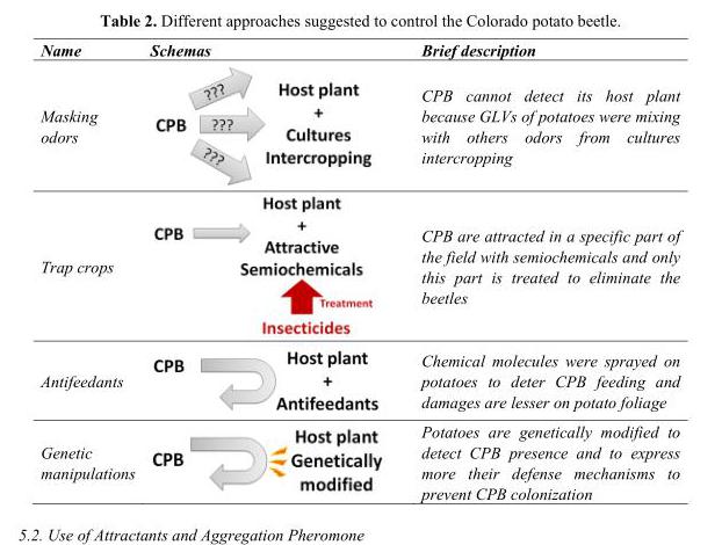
<table><thead><tr><td>Name</td><td>Schemas</td><td>Brief description</td></tr></thead><tbody><tr><td>Masking odors</td><td></td><td>CPB cannot detect its host plant because GLVs of potatoes were mixing with others odors from cultures intercropping</td></tr><tr><td>Trap crops</td><td></td><td>CPB are attracted in a specific part of the field with semiochemicals and only this part is treated to eliminate the beetles</td></tr><tr><td>Antifeedants</td><td></td><td>Chemical molecules were sprayed on potatoes to deter CPB feeding and damages are lesser on potato foliage</td></tr><tr><td>Genetic manipulations</td><td></td><td>Potatoes are genetically modified to detect CPB presence and to express more their defense mechanisms to prevent CPB colonization</td></tr></tbody></table>